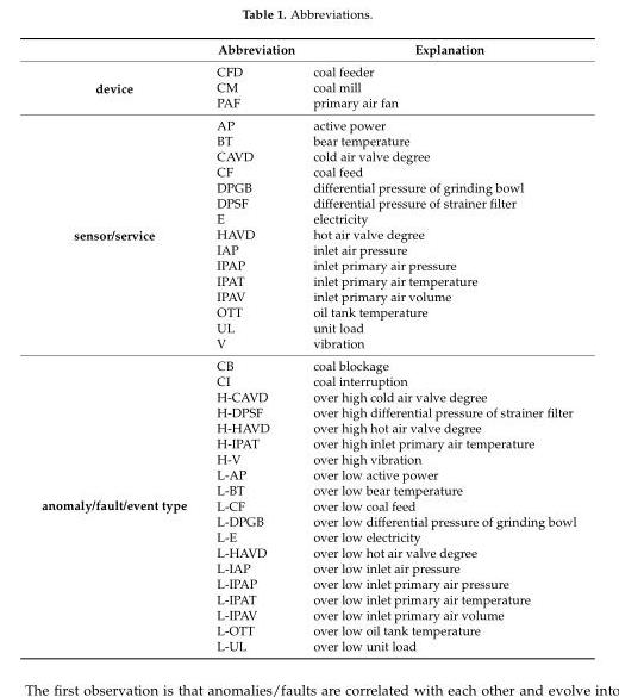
<table><thead><tr><td></td><td>Abbreviation</td><td>Explanation</td></tr></thead><tbody><tr><td rowspan="3">device</td><td>CFD</td><td>coal feeder</td></tr><tr><td>CM</td><td>coal mill</td></tr><tr><td>PAF</td><td>primary air fan</td></tr><tr><td rowspan="15">sensor/service</td><td>AP</td><td>active power</td></tr><tr><td>BT</td><td>bear temperature</td></tr><tr><td>CAVD</td><td>cold air valve degree</td></tr><tr><td>CF</td><td>coal feed</td></tr><tr><td>DPGB</td><td>differential pressure of grinding bowl</td></tr><tr><td>DPSF</td><td>differential pressure of strainer filter</td></tr><tr><td>E</td><td>electricity</td></tr><tr><td>HAVD</td><td>hot air valve degree</td></tr><tr><td>IAP</td><td>inlet air pressure</td></tr><tr><td>IPAP</td><td>inlet primary air pressure</td></tr><tr><td>IPAT</td><td>inlet primary air temperature</td></tr><tr><td>IPAV</td><td>inlet primary air volume</td></tr><tr><td>OTT</td><td>oil tank temperature</td></tr><tr><td>UL</td><td>unit load</td></tr><tr><td>V</td><td>vibration</td></tr><tr><td rowspan="19">anomaly/fault/event type</td><td>CB</td><td>coal blockage</td></tr><tr><td>CI</td><td>coal interruption</td></tr><tr><td>H-CAVD</td><td>over high cold air valve degree</td></tr><tr><td>H-DPSF</td><td>over high differential pressure of strainer filter</td></tr><tr><td>H-HAVD</td><td>over high hot air valve degree</td></tr><tr><td>H-IPAT</td><td>over high inlet primary air temperature</td></tr><tr><td>H-V</td><td>over high vibration</td></tr><tr><td>L-AP</td><td>over low active power</td></tr><tr><td>L-BT</td><td>over low bear temperature</td></tr><tr><td>L-CF</td><td>over low coal feed</td></tr><tr><td>L-DPGB</td><td>over low differential pressure of grinding bowl</td></tr><tr><td>L-E</td><td>over low electricity</td></tr><tr><td>L-HAVD</td><td>over low hot air valve degree</td></tr><tr><td>L-IAP</td><td>over low inlet air pressure</td></tr><tr><td>L-IPAP</td><td>over low inlet primary air pressure</td></tr><tr><td>L-IPAT</td><td>over low inlet primary air temperature</td></tr><tr><td>L-IPAV</td><td>over low inlet primary air volume</td></tr><tr><td>L-OTT</td><td>over low oil tank temperature</td></tr><tr><td>L-UL</td><td>over low unit load</td></tr></tbody></table>